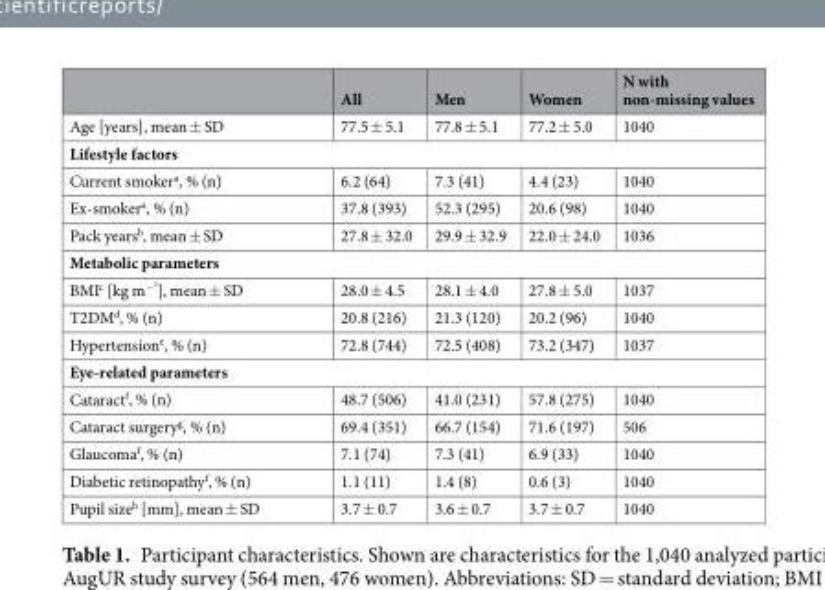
<table><thead><tr><td></td><td>All</td><td>Men</td><td>Women</td><td>N with non-missing values</td></tr></thead><tbody><tr><td>Age [years], mean ± SD</td><td>77.5 ± 5.1</td><td>77.8 ± 5.1</td><td>77.2 ± 5.0</td><td>1040</td></tr><tr><td colspan="5">Lifestyle factors</td></tr><tr><td>Current smoker<sup>a</sup>, % (n)</td><td>6.2 (64)</td><td>7.3 (41)</td><td>4.4 (23)</td><td>1040</td></tr><tr><td>Ex-smoker<sup>a</sup>, % (n)</td><td>37.8 (393)</td><td>52.3 (295)</td><td>20.6 (98)</td><td>1040</td></tr><tr><td>Pack years<sup>b</sup>, mean ± SD</td><td>27.8 ± 32.0</td><td>29.9 ± 32.9</td><td>22.0 ± 24.0</td><td>1036</td></tr><tr><td colspan="5">Metabolic parameters</td></tr><tr><td>BMI<sup>c</sup> [kg m<sup>−</sup>²], mean ± SD</td><td>28.0 ± 4.5</td><td>28.1 ± 4.0</td><td>27.8 ± 5.0</td><td>1037</td></tr><tr><td>T2DM<sup>d</sup>, % (n)</td><td>20.8 (216)</td><td>21.3 (120)</td><td>20.2 (96)</td><td>1040</td></tr><tr><td>Hypertension<sup>e</sup>, % (n)</td><td>72.8 (744)</td><td>72.5 (408)</td><td>73.2 (347)</td><td>1037</td></tr><tr><td colspan="5">Eye-related parameters</td></tr><tr><td>Cataract<sup>f</sup>, % (n)</td><td>48.7 (506)</td><td>41.0 (231)</td><td>57.8 (275)</td><td>1040</td></tr><tr><td>Cataract surgery<sup>g</sup>, % (n)</td><td>69.4 (351)</td><td>66.7 (154)</td><td>71.6 (197)</td><td>506</td></tr><tr><td>Glaucoma<sup>f</sup>, % (n)</td><td>7.1 (74)</td><td>7.3 (41)</td><td>6.9 (33)</td><td>1040</td></tr><tr><td>Diabetic retinopathy<sup>f</sup>, % (n)</td><td>1.1 (11)</td><td>1.4 (8)</td><td>0.6 (3)</td><td>1040</td></tr><tr><td>Pupil size<sup>h</sup> [mm], mean ± SD</td><td>3.7 ± 0.7</td><td>3.6 ± 0.7</td><td>3.7 ± 0.7</td><td>1040</td></tr></tbody></table>